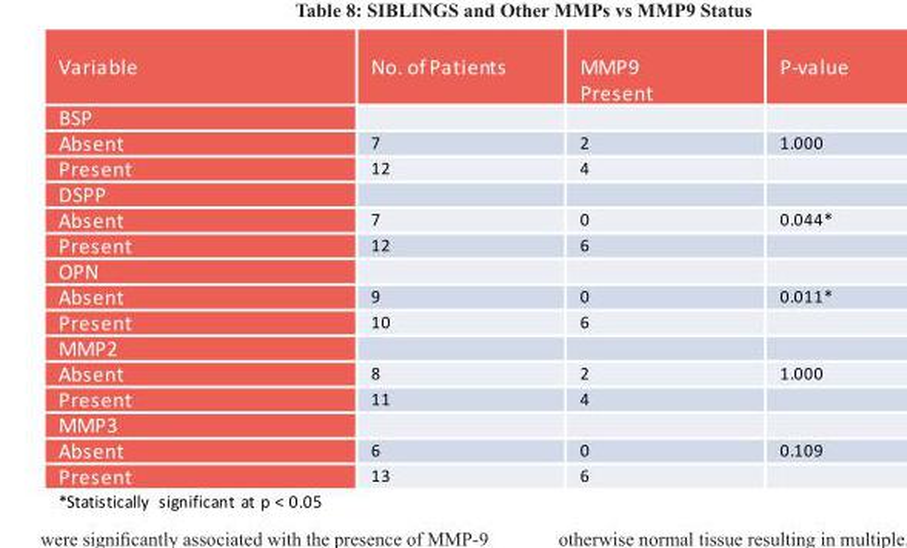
<table><thead><tr><td>Variable</td><td>No. of Patients</td><td>MMP9 Present</td><td>P-value</td></tr></thead><tbody><tr><td colspan="4">BSP</td></tr><tr><td>Absent</td><td>7</td><td>2</td><td>1.000</td></tr><tr><td>Present</td><td>12</td><td>4</td><td></td></tr><tr><td colspan="4">DSPP</td></tr><tr><td>Absent</td><td>7</td><td>0</td><td>0.044*</td></tr><tr><td>Present</td><td>12</td><td>6</td><td></td></tr><tr><td colspan="4">OPN</td></tr><tr><td>Absent</td><td>9</td><td>0</td><td>0.011*</td></tr><tr><td>Present</td><td>10</td><td>6</td><td></td></tr><tr><td colspan="4">MMP2</td></tr><tr><td>Absent</td><td>8</td><td>2</td><td>1.000</td></tr><tr><td>Present</td><td>11</td><td>4</td><td></td></tr><tr><td colspan="4">MMP3</td></tr><tr><td>Absent</td><td>6</td><td>0</td><td>0.109</td></tr><tr><td>Present</td><td>13</td><td>6</td><td></td></tr></tbody></table>